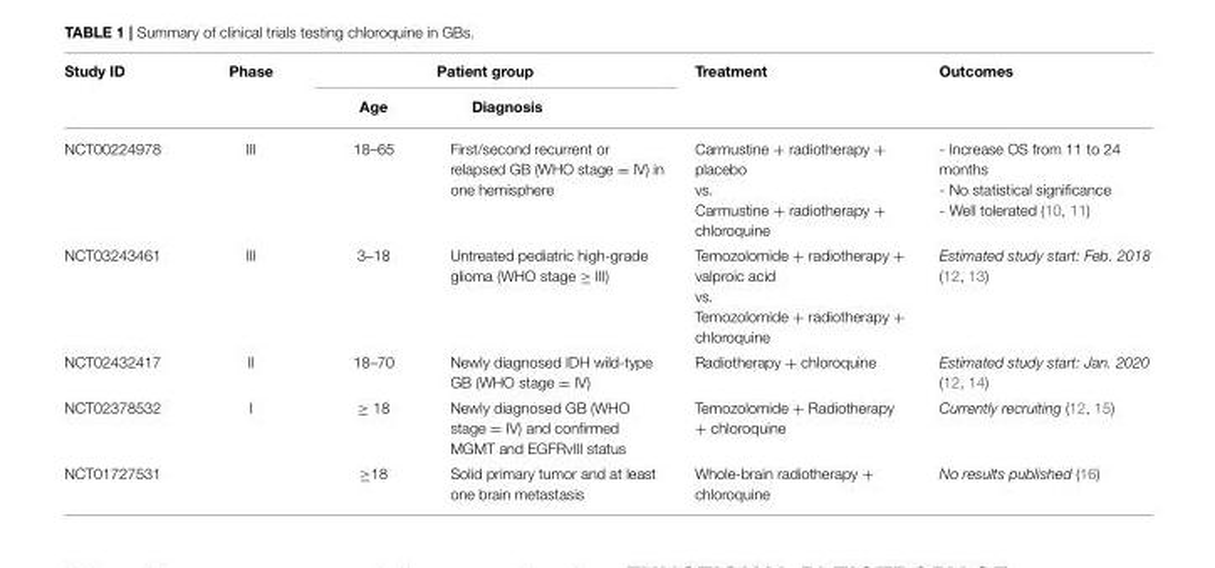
<table><thead><tr><td rowspan="2">Study ID</td><td rowspan="2">Phase</td><td colspan="2">Patient group</td><td rowspan="2">Treatment</td><td rowspan="2">Outcomes</td></tr><tr><td>Age</td><td>Diagnosis</td></tr></thead><tbody><tr><td>NCT00224978</td><td>III</td><td>18–65</td><td>First/second recurrent or relapsed GB (WHO stage = IV) in one hemisphere</td><td>Carmustine + radiotherapy + placebo vs. Carmustine + radiotherapy + chloroquine</td><td>- Increase OS from 11 to 24 months - No statistical significance - Well tolerated (10, 11)</td></tr><tr><td>NCT03243461</td><td>III</td><td>3–18</td><td>Untreated pediatric high-grade glioma (WHO stage ≥ III)</td><td>Temozolomide + radiotherapy + valproic acid vs. Temozolomide + radiotherapy + chloroquine</td><td>Estimated study start: Feb. 2018 (12, 13)</td></tr><tr><td>NCT02432417</td><td>II</td><td>18–70</td><td>Newly diagnosed IDH wild-type GB (WHO stage = IV)</td><td>Radiotherapy + chloroquine</td><td>Estimated study start: Jan. 2020 (12, 14)</td></tr><tr><td>NCT02378532</td><td>I</td><td>≥ 18</td><td>Newly diagnosed GB (WHO stage = IV) and confirmed MGMT and EGFRvIII status</td><td>Temozolomide + Radiotherapy + chloroquine</td><td>Currently recruiting (12, 15)</td></tr><tr><td>NCT01727531</td><td></td><td>≥18</td><td>Solid primary tumor and at least one brain metastasis</td><td>Whole-brain radiotherapy + chloroquine</td><td>No results published (16)</td></tr></tbody></table>